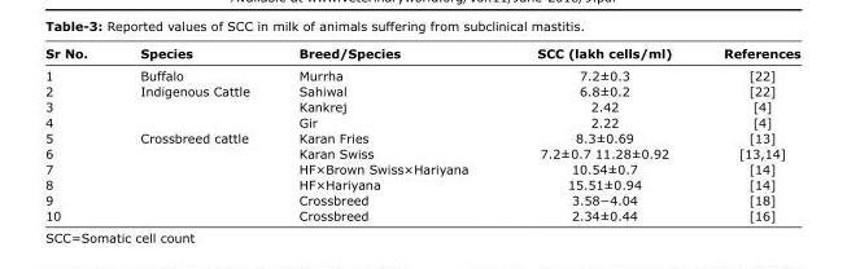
<table><thead><tr><td>Sr No.</td><td>Species</td><td>Breed/Species</td><td>SCC (lakh cells/ml)</td><td>References</td></tr></thead><tbody><tr><td>1</td><td>Buffalo</td><td>Murrha</td><td>7.2±0.3</td><td>[22]</td></tr><tr><td>2</td><td>Indigenous Cattle</td><td>Sahiwal</td><td>6.8±0.2</td><td>[22]</td></tr><tr><td>3</td><td></td><td>Kankrej</td><td>2.42</td><td>[4]</td></tr><tr><td>4</td><td></td><td>Gir</td><td>2.22</td><td>[4]</td></tr><tr><td>5</td><td>Crossbreed cattle</td><td>Karan Fries</td><td>8.3±0.69</td><td>[13]</td></tr><tr><td>6</td><td></td><td>Karan Swiss</td><td>7.2±0.7 11.28±0.92</td><td>[13,14]</td></tr><tr><td>7</td><td></td><td>HF×Brown Swiss×Hariyana</td><td>10.54±0.7</td><td>[14]</td></tr><tr><td>8</td><td></td><td>HF×Hariyana</td><td>15.51±0.94</td><td>[14]</td></tr><tr><td>9</td><td></td><td>Crossbreed</td><td>3.58−4.04</td><td>[18]</td></tr><tr><td>10</td><td></td><td>Crossbreed</td><td>2.34±0.44</td><td>[16]</td></tr></tbody></table>